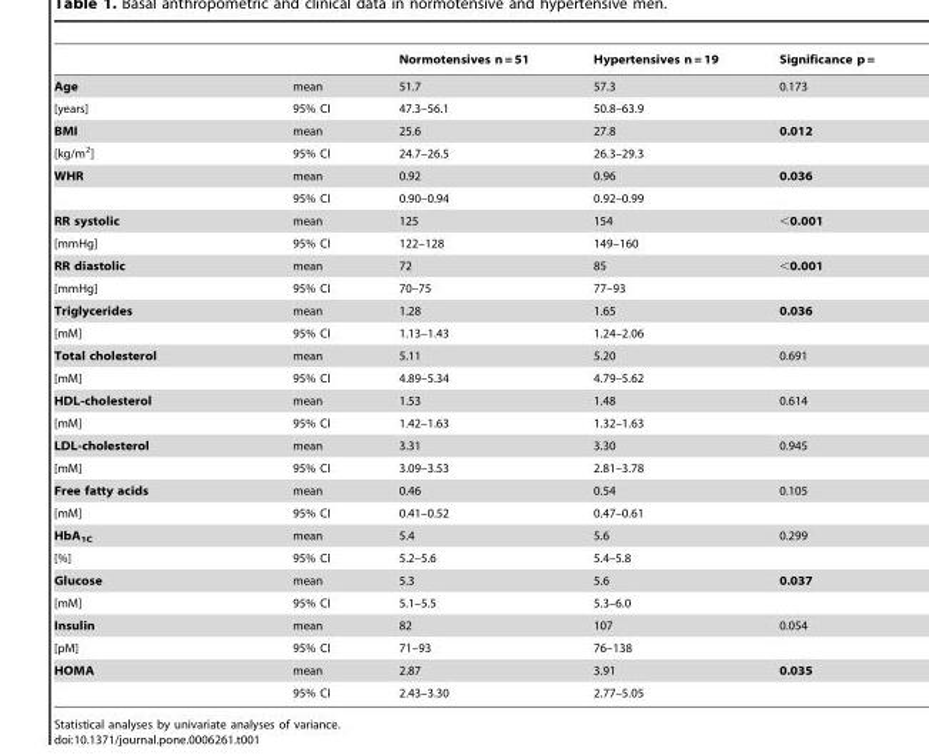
<table><thead><tr><td></td><td></td><td>Normotensives n = 51</td><td>Hypertensives n = 19</td><td>Significance p =</td></tr></thead><tbody><tr><td>Age</td><td>mean</td><td>51.7</td><td>57.3</td><td>0.173</td></tr><tr><td>[years]</td><td>95% CI</td><td>47.3–56.1</td><td>50.8–63.9</td><td></td></tr><tr><td>BMI</td><td>mean</td><td>25.6</td><td>27.8</td><td>0.012</td></tr><tr><td>[kg/m<sup>2</sup>]</td><td>95% CI</td><td>24.7–26.5</td><td>26.3–29.3</td><td></td></tr><tr><td rowspan="2">WHR</td><td>mean</td><td>0.92</td><td>0.96</td><td>0.036</td></tr><tr><td>95% CI</td><td>0.90–0.94</td><td>0.92–0.99</td><td></td></tr><tr><td>RR systolic</td><td>mean</td><td>125</td><td>154</td><td>&lt;0.001</td></tr><tr><td>[mmHg]</td><td>95% CI</td><td>122–128</td><td>149–160</td><td></td></tr><tr><td>RR diastolic</td><td>mean</td><td>72</td><td>85</td><td>&lt;0.001</td></tr><tr><td>[mmHg]</td><td>95% CI</td><td>70–75</td><td>77–93</td><td></td></tr><tr><td>Triglycerides</td><td>mean</td><td>1.28</td><td>1.65</td><td>0.036</td></tr><tr><td>[mM]</td><td>95% CI</td><td>1.13–1.43</td><td>1.24–2.06</td><td></td></tr><tr><td>Total cholesterol</td><td>mean</td><td>5.11</td><td>5.20</td><td>0.691</td></tr><tr><td>[mM]</td><td>95% CI</td><td>4.89–5.34</td><td>4.79–5.62</td><td></td></tr><tr><td>HDL-cholesterol</td><td>mean</td><td>1.53</td><td>1.48</td><td>0.614</td></tr><tr><td>[mM]</td><td>95% CI</td><td>1.42–1.63</td><td>1.32–1.63</td><td></td></tr><tr><td>LDL-cholesterol</td><td>mean</td><td>3.31</td><td>3.30</td><td>0.945</td></tr><tr><td>[mM]</td><td>95% CI</td><td>3.09–3.53</td><td>2.81–3.78</td><td></td></tr><tr><td>Free fatty acids</td><td>mean</td><td>0.46</td><td>0.54</td><td>0.105</td></tr><tr><td>[mM]</td><td>95% CI</td><td>0.41–0.52</td><td>0.47–0.61</td><td></td></tr><tr><td>HbA<sub>1C</sub></td><td>mean</td><td>5.4</td><td>5.6</td><td>0.299</td></tr><tr><td>[%]</td><td>95% CI</td><td>5.2–5.6</td><td>5.4–5.8</td><td></td></tr><tr><td>Glucose</td><td>mean</td><td>5.3</td><td>5.6</td><td>0.037</td></tr><tr><td>[mM]</td><td>95% CI</td><td>5.1–5.5</td><td>5.3–6.0</td><td></td></tr><tr><td>Insulin</td><td>mean</td><td>82</td><td>107</td><td>0.054</td></tr><tr><td>[pM]</td><td>95% CI</td><td>71–93</td><td>76–138</td><td></td></tr><tr><td rowspan="2">HOMA</td><td>mean</td><td>2.87</td><td>3.91</td><td>0.035</td></tr><tr><td>95% CI</td><td>2.43–3.30</td><td>2.77–5.05</td><td></td></tr></tbody></table>